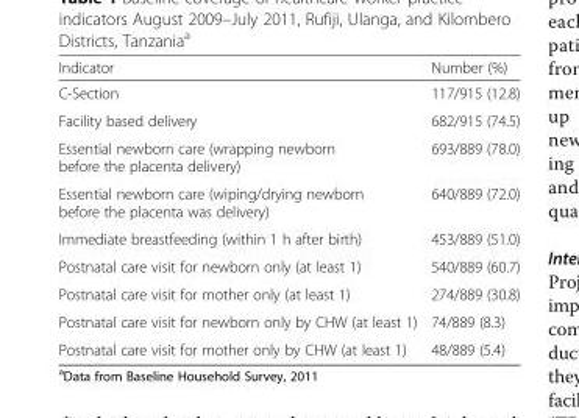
<table><thead><tr><td>Indicator</td><td>Number (%)</td></tr></thead><tbody><tr><td>C-Section</td><td>117/915 (12.8)</td></tr><tr><td>Facility based delivery</td><td>682/915 (74.5)</td></tr><tr><td>Essential newborn care (wrapping newborn before the placenta delivery)</td><td>693/889 (78.0)</td></tr><tr><td>Essential newborn care (wiping/drying newborn before the placenta was delivery)</td><td>640/889 (72.0)</td></tr><tr><td>Immediate breastfeeding (within 1 h after birth)</td><td>453/889 (51.0)</td></tr><tr><td>Postnatal care visit for newborn only (at least 1)</td><td>540/889 (60.7)</td></tr><tr><td>Postnatal care visit for mother only (at least 1)</td><td>274/889 (30.8)</td></tr><tr><td>Postnatal care visit for newborn only by CHW (at least 1)</td><td>74/889 (8.3)</td></tr><tr><td>Postnatal care visit for mother only by CHW (at least 1)</td><td>48/889 (5.4)</td></tr></tbody></table>